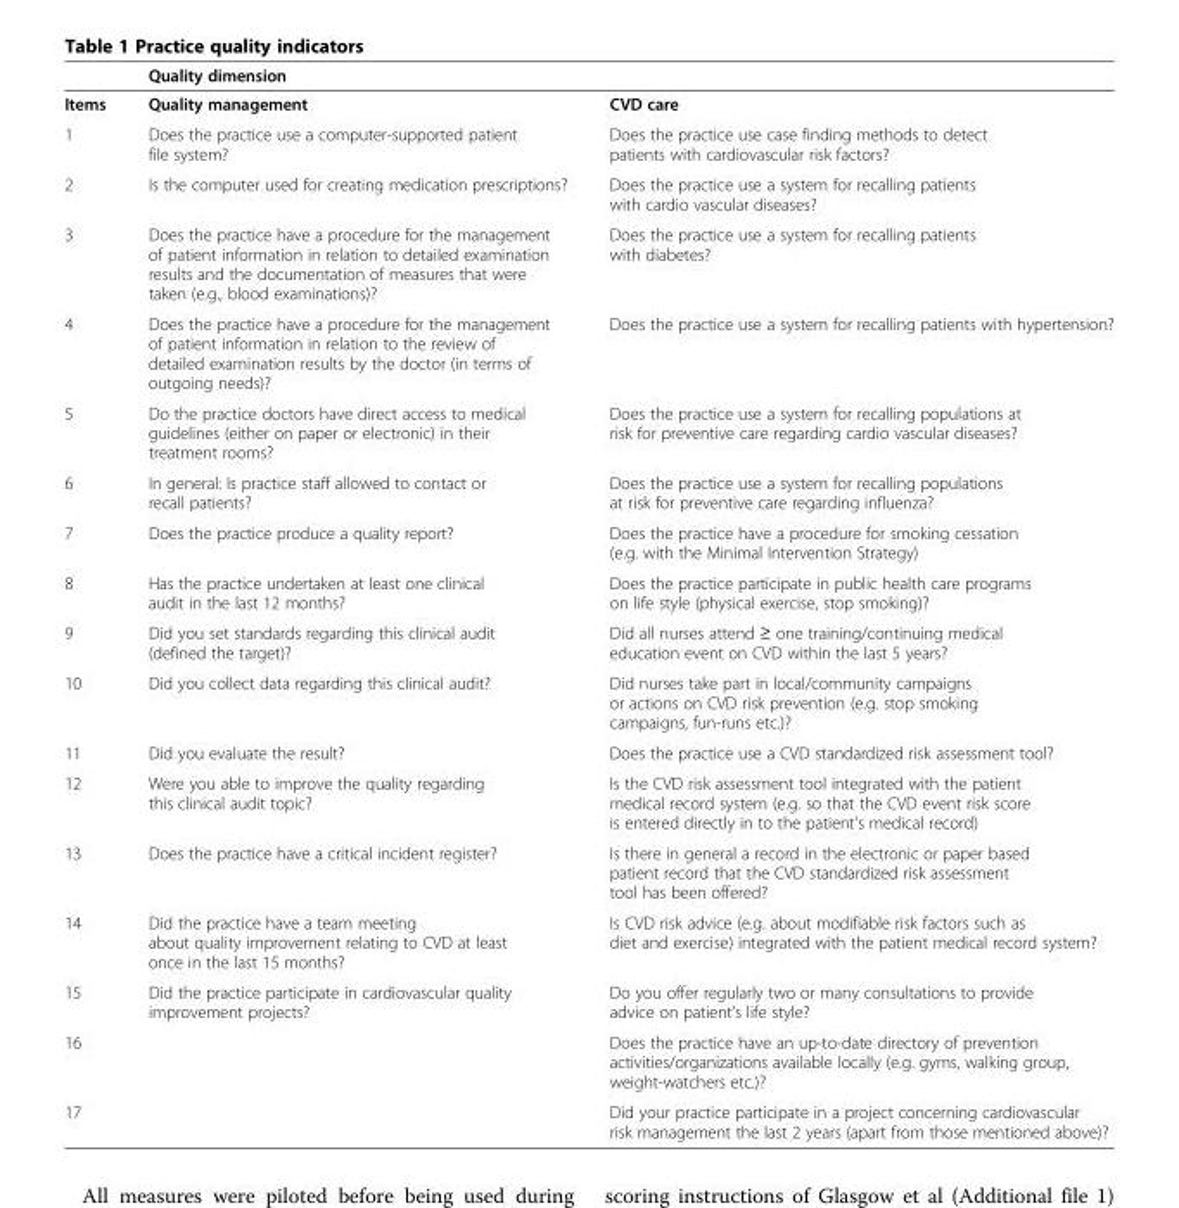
<table><thead><tr><td></td><td>Quality dimension</td><td></td></tr></thead><tbody><tr><td>Items</td><td>Quality management</td><td>CVD care</td></tr><tr><td>1</td><td>Does the practice use a computer-supported patient file system?</td><td>Does the practice use case finding methods to detect patients with cardiovascular risk factors?</td></tr><tr><td>2</td><td>Is the computer used for creating medication prescriptions?</td><td>Does the practice use a system for recalling patients with cardio vascular diseases?</td></tr><tr><td>3</td><td>Does the practice have a procedure for the management of patient information in relation to detailed examination results and the documentation of measures that were taken (e.g., blood examinations)?</td><td>Does the practice use a system for recalling patients with diabetes?</td></tr><tr><td>4</td><td>Does the practice have a procedure for the management of patient information in relation to the review of detailed examination results by the doctor (in terms of outgoing needs)?</td><td>Does the practice use a system for recalling patients with hypertension?</td></tr><tr><td>5</td><td>Do the practice doctors have direct access to medical guidelines (either on paper or electronic) in their treatment rooms?</td><td>Does the practice use a system for recalling populations at risk for preventive care regarding cardio vascular diseases?</td></tr><tr><td>6</td><td>In general: Is practice staff allowed to contact or recall patients?</td><td>Does the practice use a system for recalling populations at risk for preventive care regarding influenza?</td></tr><tr><td>7</td><td>Does the practice produce a quality report?</td><td>Does the practice have a procedure for smoking cessation (e.g. with the Minimal Intervention Strategy)</td></tr><tr><td>8</td><td>Has the practice undertaken at least one clinical audit in the last 12 months?</td><td>Does the practice participate in public health care programs on life style (physical exercise, stop smoking)?</td></tr><tr><td>9</td><td>Did you set standards regarding this clinical audit (defined the target)?</td><td>Did all nurses attend ≥ one training/continuing medical education event on CVD within the last 5 years?</td></tr><tr><td>10</td><td>Did you collect data regarding this clinical audit?</td><td>Did nurses take part in local/community campaigns or actions on CVD risk prevention (e.g. stop smoking campaigns, fun-runs etc.)?</td></tr><tr><td>11</td><td>Did you evaluate the result?</td><td>Does the practice use a CVD standardized risk assessment tool?</td></tr><tr><td>12</td><td>Were you able to improve the quality regarding this clinical audit topic?</td><td>Is the CVD risk assessment tool integrated with the patient medical record system (e.g. so that the CVD event risk score is entered directly in to the patient&#x27;s medical record)</td></tr><tr><td>13</td><td>Does the practice have a critical incident register?</td><td>Is there in general a record in the electronic or paper based patient record that the CVD standardized risk assessment tool has been offered?</td></tr><tr><td>14</td><td>Did the practice have a team meeting about quality improvement relating to CVD at least once in the last 15 months?</td><td>Is CVD risk advice (e.g. about modifiable risk factors such as diet and exercise) integrated with the patient medical record system?</td></tr><tr><td>15</td><td>Did the practice participate in cardiovascular quality improvement projects?</td><td>Do you offer regularly two or many consultations to provide advice on patient’s life style?</td></tr><tr><td>16</td><td></td><td>Does the practice have an up-to-date directory of prevention activities/organizations available locally (e.g. gyms, walking group, weight-watchers etc.)?</td></tr><tr><td>17</td><td></td><td>Did your practice participate in a project concerning cardiovascular risk management the last 2 years (apart from those mentioned above)?</td></tr></tbody></table>